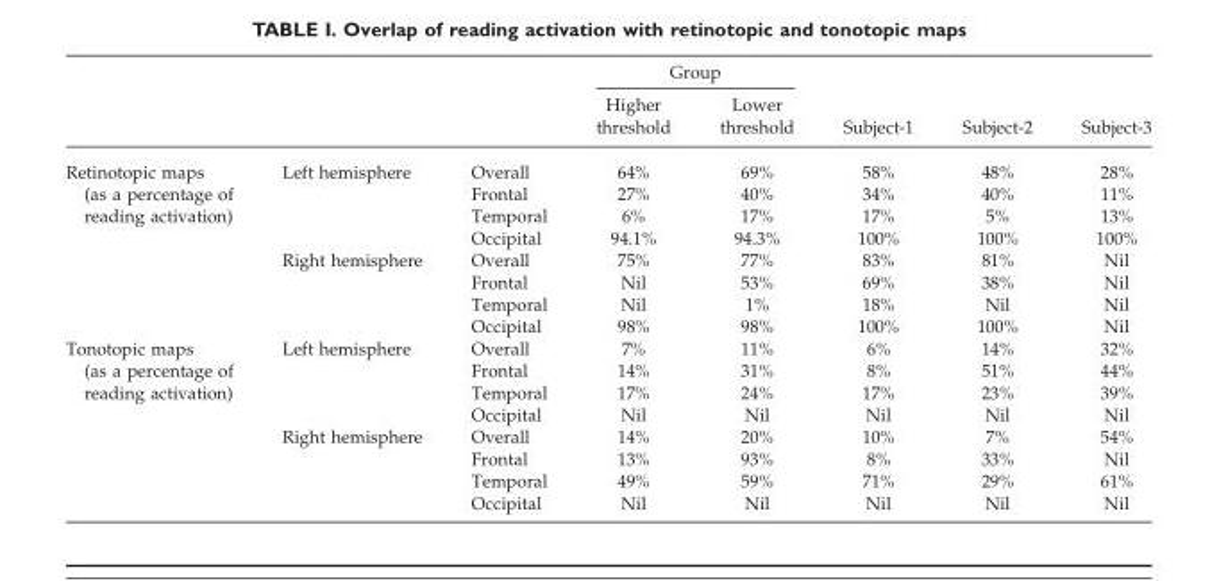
<table><thead><tr><td rowspan="2"></td><td rowspan="2"></td><td rowspan="2"></td><td colspan="2">Group</td><td rowspan="2">Subject-1</td><td rowspan="2">Subject-2</td><td rowspan="2">Subject-3</td></tr><tr><td>Higher threshold</td><td>Lower threshold</td></tr></thead><tbody><tr><td rowspan="8">Retinotopic maps (as a percentage of reading activation)</td><td rowspan="4">Left hemisphere</td><td>Overall</td><td>64%</td><td>69%</td><td>58%</td><td>48%</td><td>28%</td></tr><tr><td>Frontal</td><td>27%</td><td>40%</td><td>34%</td><td>40%</td><td>11%</td></tr><tr><td>Temporal</td><td>6%</td><td>17%</td><td>17%</td><td>5%</td><td>13%</td></tr><tr><td>Occipital</td><td>94.1%</td><td>94.3%</td><td>100%</td><td>100%</td><td>100%</td></tr><tr><td rowspan="4">Right hemisphere</td><td>Overall</td><td>75%</td><td>77%</td><td>83%</td><td>81%</td><td>Nil</td></tr><tr><td>Frontal</td><td>Nil</td><td>53%</td><td>69%</td><td>38%</td><td>Nil</td></tr><tr><td>Temporal</td><td>Nil</td><td>1%</td><td>18%</td><td>Nil</td><td>Nil</td></tr><tr><td>Occipital</td><td>98%</td><td>98%</td><td>100%</td><td>100%</td><td>Nil</td></tr><tr><td rowspan="8">Tonotopic maps (as a percentage of reading activation)</td><td rowspan="4">Left hemisphere</td><td>Overall</td><td>7%</td><td>11%</td><td>6%</td><td>14%</td><td>32%</td></tr><tr><td>Frontal</td><td>14%</td><td>31%</td><td>8%</td><td>51%</td><td>44%</td></tr><tr><td>Temporal</td><td>17%</td><td>24%</td><td>17%</td><td>23%</td><td>39%</td></tr><tr><td>Occipital</td><td>Nil</td><td>Nil</td><td>Nil</td><td>Nil</td><td>Nil</td></tr><tr><td rowspan="4">Right hemisphere</td><td>Overall</td><td>14%</td><td>20%</td><td>10%</td><td>7%</td><td>54%</td></tr><tr><td>Frontal</td><td>13%</td><td>93%</td><td>8%</td><td>33%</td><td>Nil</td></tr><tr><td>Temporal</td><td>49%</td><td>59%</td><td>71%</td><td>29%</td><td>61%</td></tr><tr><td>Occipital</td><td>Nil</td><td>Nil</td><td>Nil</td><td>Nil</td><td>Nil</td></tr></tbody></table>